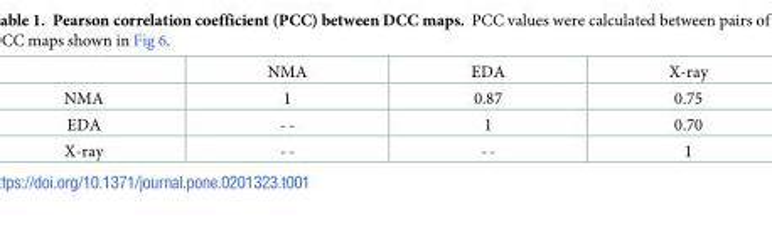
<table><thead><tr><td></td><td>NMA</td><td>EDA</td><td>X-ray</td></tr></thead><tbody><tr><td>NMA</td><td>1</td><td>0.87</td><td>0.75</td></tr><tr><td>EDA</td><td>--</td><td>1</td><td>0.70</td></tr><tr><td>X-ray</td><td>--</td><td>--</td><td>1</td></tr></tbody></table>